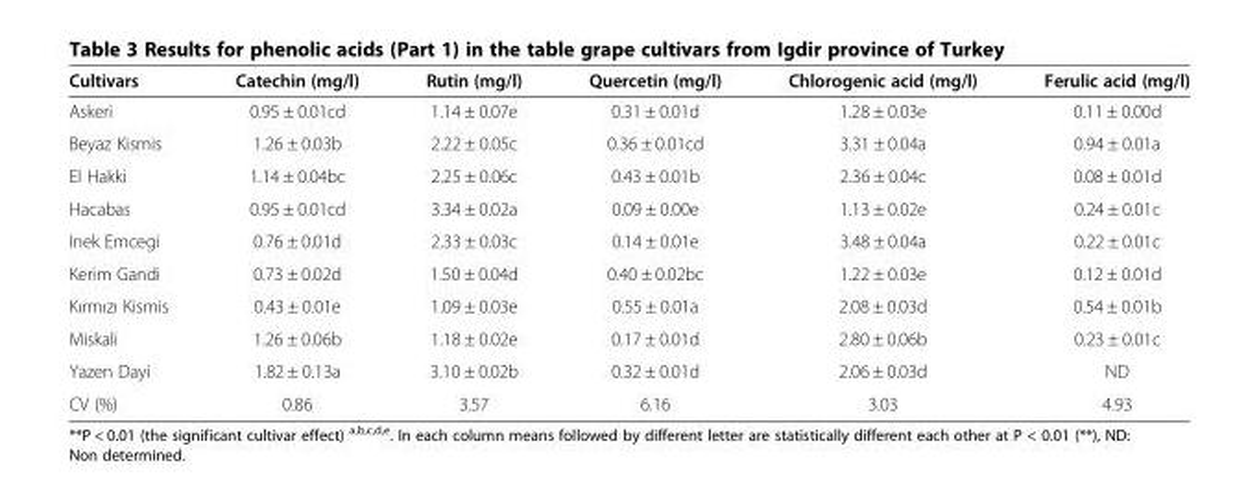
<table><thead><tr><td>Cultivars</td><td>Catechin (mg/l)</td><td>Rutin (mg/l)</td><td>Quercetin (mg/l)</td><td>Chlorogenic acid (mg/l)</td><td>Ferulic acid (mg/l)</td></tr></thead><tbody><tr><td>Askeri</td><td>0.95 ± 0.01cd</td><td>1.14 ± 0.07e</td><td>0.31 ± 0.01d</td><td>1.28 ± 0.03e</td><td>0.11 ± 0.00d</td></tr><tr><td>Beyaz Kismis</td><td>1.26 ± 0.03b</td><td>2.22 ± 0.05c</td><td>0.36 ± 0.01cd</td><td>3.31 ± 0.04a</td><td>0.94 ± 0.01a</td></tr><tr><td>El Hakki</td><td>1.14 ± 0.04bc</td><td>2.25 ± 0.06c</td><td>0.43 ± 0.01b</td><td>2.36 ± 0.04c</td><td>0.08 ± 0.01d</td></tr><tr><td>Hacabas</td><td>0.95 ± 0.01cd</td><td>3.34 ± 0.02a</td><td>0.09 ± 0.00e</td><td>1.13 ± 0.02e</td><td>0.24 ± 0.01c</td></tr><tr><td>Inek Emcegi</td><td>0.76 ± 0.01d</td><td>2.33 ± 0.03c</td><td>0.14 ± 0.01e</td><td>3.48 ± 0.04a</td><td>0.22 ± 0.01c</td></tr><tr><td>Kerim Gandi</td><td>0.73 ± 0.02d</td><td>1.50 ± 0.04d</td><td>0.40 ± 0.02bc</td><td>1.22 ± 0.03e</td><td>0.12 ± 0.01d</td></tr><tr><td>Kırmızı Kismis</td><td>0.43 ± 0.01e</td><td>1.09 ± 0.03e</td><td>0.55 ± 0.01a</td><td>2.08 ± 0.03d</td><td>0.54 ± 0.01b</td></tr><tr><td>Miskali</td><td>1.26 ± 0.06b</td><td>1.18 ± 0.02e</td><td>0.17 ± 0.01d</td><td>2.80 ± 0.06b</td><td>0.23 ± 0.01c</td></tr><tr><td>Yazen Dayi</td><td>1.82 ± 0.13a</td><td>3.10 ± 0.02b</td><td>0.32 ± 0.01d</td><td>2.06 ± 0.03d</td><td>ND</td></tr><tr><td>CV (%)</td><td>0.86</td><td>3.57</td><td>6.16</td><td>3.03</td><td>4.93</td></tr></tbody></table>